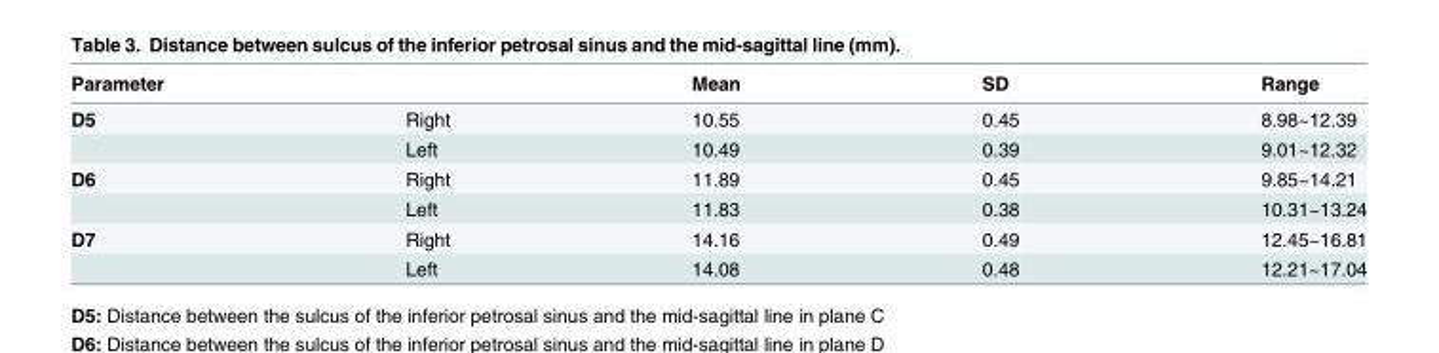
<table><thead><tr><td>Parameter</td><td></td><td>Mean</td><td>SD</td><td>Range</td></tr></thead><tbody><tr><td rowspan="2">D5</td><td>Right</td><td>10.55</td><td>0.45</td><td>8.98~12.39</td></tr><tr><td>Left</td><td>10.49</td><td>0.39</td><td>9.01~12.32</td></tr><tr><td rowspan="2">D6</td><td>Right</td><td>11.89</td><td>0.45</td><td>9.85~14.21</td></tr><tr><td>Left</td><td>11.83</td><td>0.38</td><td>10.31~13.24</td></tr><tr><td rowspan="2">D7</td><td>Right</td><td>14.16</td><td>0.49</td><td>12.45~16.81</td></tr><tr><td>Left</td><td>14.08</td><td>0.48</td><td>12.21~17.04</td></tr></tbody></table>